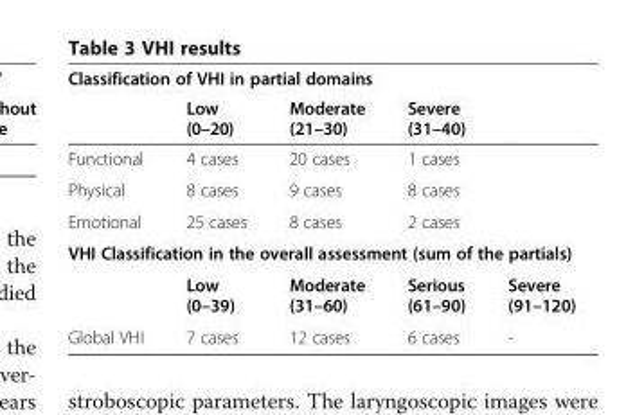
<table><thead><tr><td colspan="5">Classification of VHI in partial domains</td></tr><tr><td></td><td>Low (0–20)</td><td>Moderate (21–30)</td><td>Severe (31–40)</td><td></td></tr></thead><tbody><tr><td>Functional</td><td>4 cases</td><td>20 cases</td><td>1 cases</td><td></td></tr><tr><td>Physical</td><td>8 cases</td><td>9 cases</td><td>8 cases</td><td></td></tr><tr><td>Emotional</td><td>25 cases</td><td>8 cases</td><td>2 cases</td><td></td></tr><tr><td colspan="5">VHI Classification in the overall assessment (sum of the partials)</td></tr><tr><td></td><td>Low (0–39)</td><td>Moderate (31–60)</td><td>Serious (61–90)</td><td>Severe (91–120)</td></tr><tr><td>Global VHI</td><td>7 cases</td><td>12 cases</td><td>6 cases</td><td>-</td></tr></tbody></table>